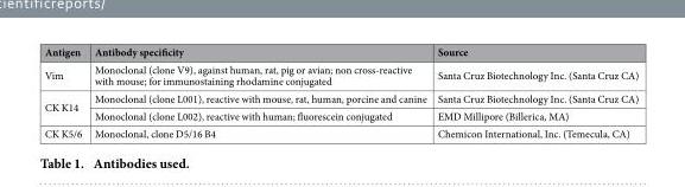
<table><thead><tr><td>Antigen</td><td>Antibody specificity</td><td>Source</td></tr></thead><tbody><tr><td>Vim</td><td>Monoclonal (clone V9), against human, rat, pig or avian; non cross-reactive with mouse; for immunostaining rhodamine conjugated</td><td>Santa Cruz Biotechnology Inc. (Santa Cruz CA)</td></tr><tr><td rowspan="2">CK K14</td><td>Monoclonal (clone L001), reactive with mouse, rat, human, porcine and canine</td><td>Santa Cruz Biotechnology Inc. (Santa Cruz CA)</td></tr><tr><td>Monoclonal (clone L002), reactive with human; fluorescein conjugated</td><td>EMD Millipore (Billerica, MA)</td></tr><tr><td>CK K5/6</td><td>Monoclonal, clone D5/16 B4</td><td>Chemicon International, Inc. (Temecula, CA)</td></tr></tbody></table>